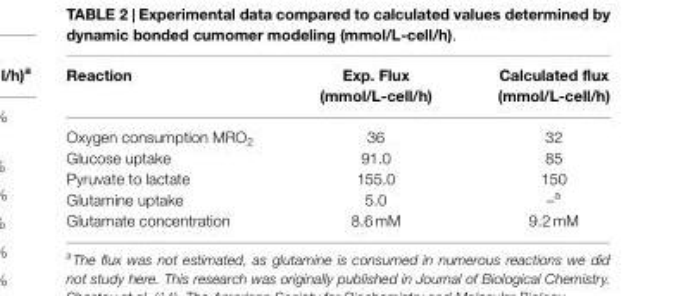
<table><thead><tr><td>Reaction</td><td>Exp. Flux (mmol/L-cell/h)</td><td>Calculated flux (mmol/L-cell/h)</td></tr></thead><tbody><tr><td>Oxygen consumption MRO<sub>2</sub></td><td>36</td><td>32</td></tr><tr><td>Glucose uptake</td><td>91.0</td><td>85</td></tr><tr><td>Pyruvate to lactate</td><td>155.0</td><td>150</td></tr><tr><td>Glutamine uptake</td><td>5.0</td><td>–<sup>a</sup></td></tr><tr><td>Glutamate concentration</td><td>8.6 mM</td><td>9.2 mM</td></tr></tbody></table>